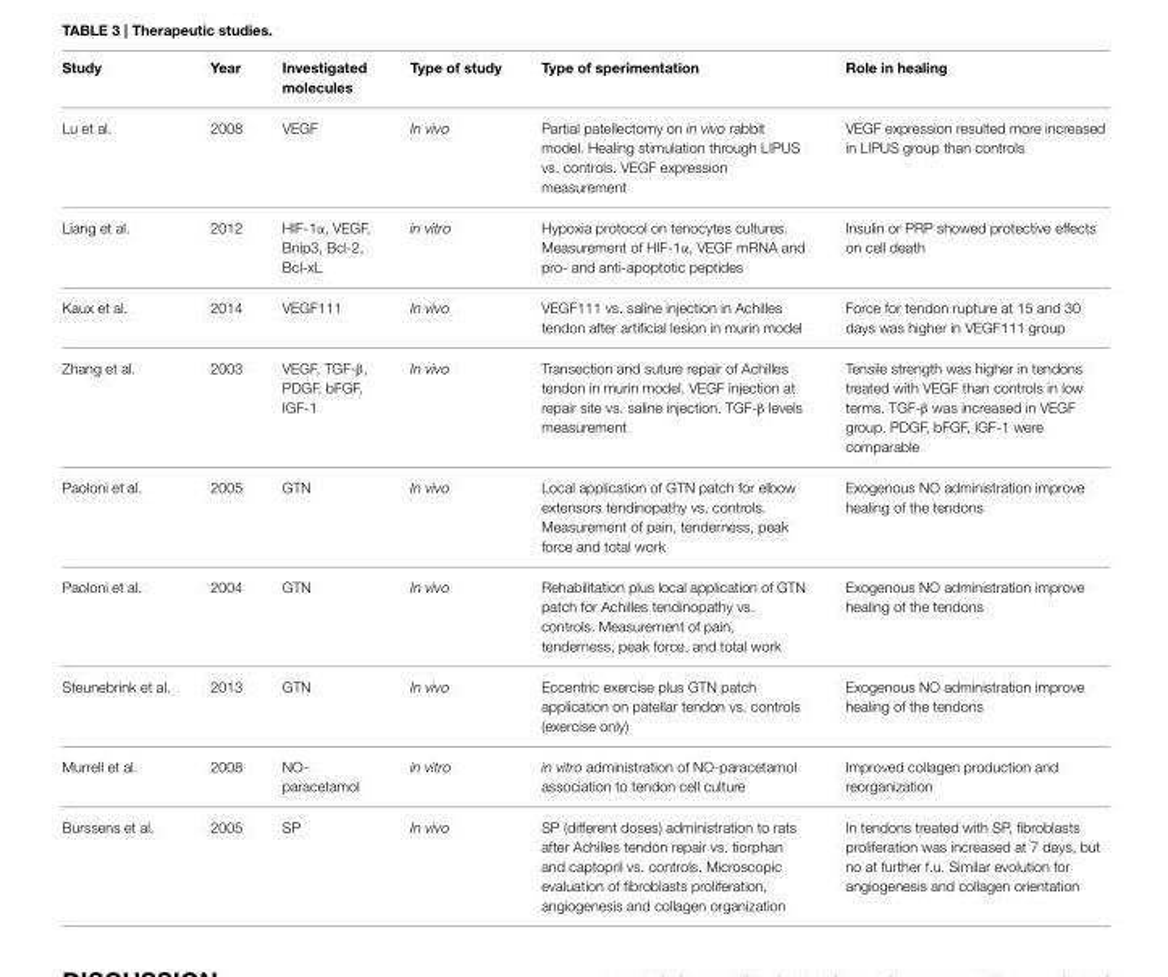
<table><thead><tr><td>Study</td><td>Year</td><td>Investigated molecules</td><td>Type of study</td><td>Type of sperimentation</td><td>Role in healing</td></tr></thead><tbody><tr><td>Lu et al.</td><td>2008</td><td>VEGF</td><td>In vivo</td><td>Partial patellectomy on in vivo rabbit model. Healing stimulation through LIPUS vs. controls. VEGF expression measurement</td><td>VEGF expression resulted more increased in LIPUS group than controls</td></tr><tr><td>Liang et al.</td><td>2012</td><td>HIF-1α, VEGF, Bnip3, Bcl-2, Bcl-xL</td><td>in vitro</td><td>Hypoxia protocol on tenocytes cultures. Measurement of HIF-1α, VEGF mRNA and pro- and anti-apoptotic peptides</td><td>Insulin or PRP showed protective effects on cell death</td></tr><tr><td>Kaux et al.</td><td>2014</td><td>VEGF111</td><td>In vivo</td><td>VEGF111 vs. saline injection in Achilles tendon after artificial lesion in murin model</td><td>Force for tendon rupture at 15 and 30 days was higher in VEGF111 group</td></tr><tr><td>Zhang et al.</td><td>2003</td><td>VEGF, TGF-β, PDGF, bFGF, IGF-1</td><td>In vivo</td><td>Transection and suture repair of Achilles tendon in murin model. VEGF injection at repair site vs. saline injection. TGF-β levels measurement</td><td>Tensile strength was higher in tendons treated with VEGF than controls in low terms. TGF-β was increased in VEGF group. PDGF, bFGF, IGF-1 were comparable</td></tr><tr><td>Paoloni et al.</td><td>2005</td><td>GTN</td><td>In vivo</td><td>Local application of GTN patch for elbow extensors tendinopathy vs. controls. Measurement of pain, tenderness, peak force and total work</td><td>Exogenous NO administration improve healing of the tendons</td></tr><tr><td>Paoloni et al.</td><td>2004</td><td>GTN</td><td>In vivo</td><td>Rehabilitation plus local application of GTN patch for Achilles tendinopathy vs. controls. Measurement of pain, tenderness, peak force, and total work</td><td>Exogenous NO administration improve healing of the tendons</td></tr><tr><td>Steunebrink et al.</td><td>2013</td><td>GTN</td><td>In vivo</td><td>Eccentric exercise plus GTN patch application on patellar tendon vs. controls (exercise only)</td><td>Exogenous NO administration improve healing of the tendons</td></tr><tr><td>Murrell et al.</td><td>2008</td><td>NO- paracetamol</td><td>in vitro</td><td>in vitro administration of NO-paracetamol association to tendon cell culture</td><td>Improved collagen production and reorganization</td></tr><tr><td>Burssens et al.</td><td>2005</td><td>SP</td><td>In vivo</td><td>SP (different doses) administration to rats after Achilles tendon repair vs. tiorphan and captopril vs. controls. Microscopic evaluation of fibroblasts proliferation, angiogenesis and collagen organization</td><td>In tendons treated with SP, fibroblasts proliferation was increased at 7 days, but no at further f.u. Similar evolution for angiogenesis and collagen orientation</td></tr></tbody></table>